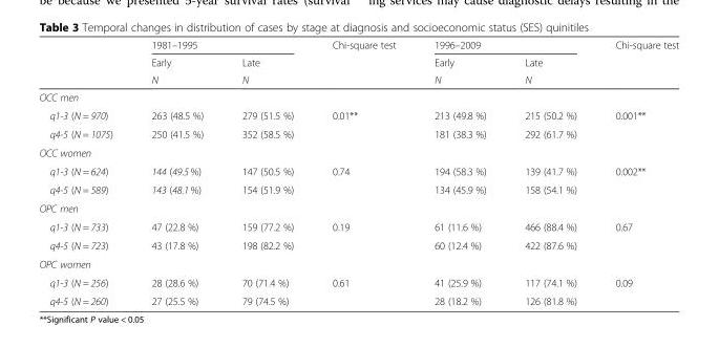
<table><thead><tr><td rowspan="3"></td><td colspan="2">1981–1995</td><td rowspan="3">Chi-square test</td><td colspan="2">1996–2009</td><td rowspan="3">Chi-square test</td></tr><tr><td rowspan="2">Early N</td><td rowspan="2">Late N</td><td rowspan="2">Early N</td><td rowspan="2">Late N</td></tr><tr></tr></thead><tbody><tr><td colspan="7">OCC men</td></tr><tr><td>q1-3 (N = 970)</td><td>263 (48.5 %)</td><td>279 (51.5 %)</td><td>0.01**</td><td>213 (49.8 %)</td><td>215 (50.2 %)</td><td>0.001**</td></tr><tr><td>q4-5 (N = 1075)</td><td>250 (41.5 %)</td><td>352 (58.5 %)</td><td></td><td>181 (38.3 %)</td><td>292 (61.7 %)</td><td></td></tr><tr><td colspan="7">OCC women</td></tr><tr><td>q1-3 (N = 624)</td><td>144 (49.5 %)</td><td>147 (50.5 %)</td><td>0.74</td><td>194 (58.3 %)</td><td>139 (41.7 %)</td><td>0.002**</td></tr><tr><td>q4-5 (N = 589)</td><td>143 (48.1 %)</td><td>154 (51.9 %)</td><td></td><td>134 (45.9 %)</td><td>158 (54.1 %)</td><td></td></tr><tr><td colspan="7">OPC men</td></tr><tr><td>q1-3 (N = 733)</td><td>47 (22.8 %)</td><td>159 (77.2 %)</td><td rowspan="2">0.19</td><td>61 (11.6 %)</td><td>466 (88.4 %)</td><td rowspan="2">0.67</td></tr><tr><td>q4-5 (N = 723)</td><td>43 (17.8 %)</td><td>198 (82.2 %)</td><td>60 (12.4 %)</td><td>422 (87.6 %)</td></tr><tr><td colspan="7">OPC women</td></tr><tr><td>q1-3 (N = 256)</td><td>28 (28.6 %)</td><td>70 (71.4 %)</td><td rowspan="2">0.61</td><td>41 (25.9 %)</td><td>117 (74.1 %)</td><td rowspan="2">0.09</td></tr><tr><td>q4-5 (N = 260)</td><td>27 (25.5 %)</td><td>79 (74.5 %)</td><td>28 (18.2 %)</td><td>126 (81.8 %)</td></tr></tbody></table>